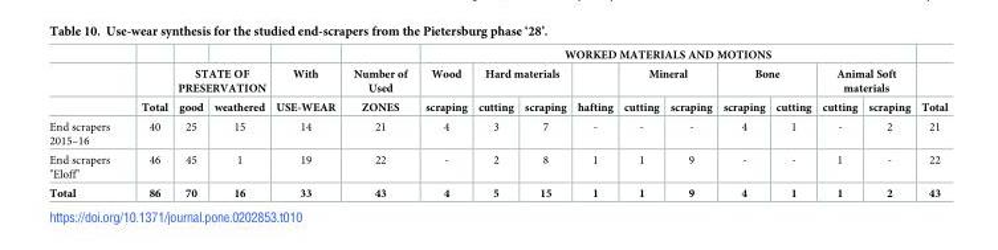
<table><thead><tr><td rowspan="3"></td><td rowspan="3">Total</td><td></td><td></td><td rowspan="3">With USE-WEAR</td><td rowspan="3">Number of Used ZONES</td><td colspan="10">WORKED MATERIALS AND MOTIONS</td><td rowspan="3">Total</td></tr><tr><td colspan="2">STATE OF PRESERVATION</td><td rowspan="2">Wood scraping</td><td colspan="2">Hard materials</td><td rowspan="2">hafting</td><td colspan="2">Mineral</td><td colspan="2">Bone</td><td colspan="2">Animal Soft materials</td></tr><tr><td>good</td><td>weathered</td><td>cutting</td><td>scraping</td><td>cutting</td><td>scraping</td><td>scraping</td><td>cutting</td><td>cutting</td><td>scraping</td></tr></thead><tbody><tr><td>End scrapers 2015–16</td><td>40</td><td>25</td><td>15</td><td>14</td><td>21</td><td>4</td><td>3</td><td>7</td><td>-</td><td>-</td><td>-</td><td>4</td><td>1</td><td>-</td><td>2</td><td>21</td></tr><tr><td>End scrapers &quot;Eloff&quot;</td><td>46</td><td>45</td><td>1</td><td>19</td><td>22</td><td>-</td><td>2</td><td>8</td><td>1</td><td>1</td><td>9</td><td>-</td><td>-</td><td>1</td><td>-</td><td>22</td></tr><tr><td>Total</td><td>86</td><td>70</td><td>16</td><td>33</td><td>43</td><td>4</td><td>5</td><td>15</td><td>1</td><td>1</td><td>9</td><td>4</td><td>1</td><td>1</td><td>2</td><td>43</td></tr></tbody></table>